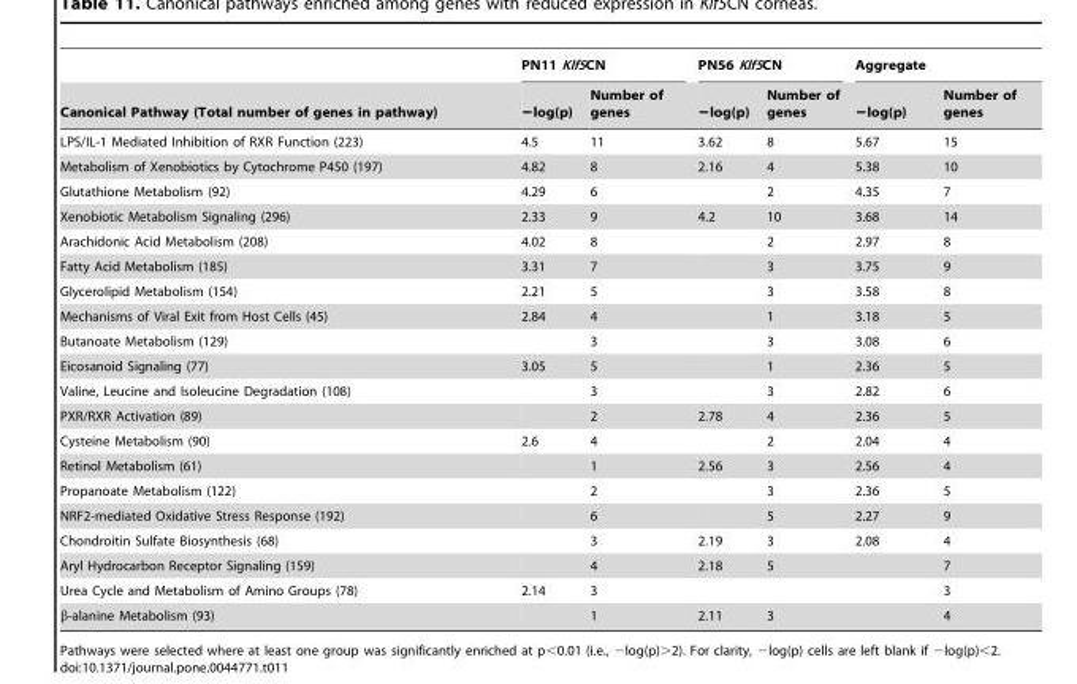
<table><thead><tr><td rowspan="2">Canonical Pathway (Total number of genes in pathway)</td><td colspan="2">PN11 Klf5CN</td><td colspan="2">PN56 Klf5CN</td><td colspan="2">Aggregate</td></tr><tr><td>−log(p)</td><td>Number of genes</td><td>−log(p)</td><td>Number of genes</td><td>−log(p)</td><td>Number of genes</td></tr></thead><tbody><tr><td>LPS/IL-1 Mediated Inhibition of RXR Function (223)</td><td>4.5</td><td>11</td><td>3.62</td><td>8</td><td>5.67</td><td>15</td></tr><tr><td>Metabolism of Xenobiotics by Cytochrome P450 (197)</td><td>4.82</td><td>8</td><td>2.16</td><td>4</td><td>5.38</td><td>10</td></tr><tr><td>Glutathione Metabolism (92)</td><td>4.29</td><td>6</td><td></td><td>2</td><td>4.35</td><td>7</td></tr><tr><td>Xenobiotic Metabolism Signaling (296)</td><td>2.33</td><td>9</td><td>4.2</td><td>10</td><td>3.68</td><td>14</td></tr><tr><td>Arachidonic Acid Metabolism (208)</td><td>4.02</td><td>8</td><td></td><td>2</td><td>2.97</td><td>8</td></tr><tr><td>Fatty Acid Metabolism (185)</td><td>3.31</td><td>7</td><td></td><td>3</td><td>3.75</td><td>9</td></tr><tr><td>Glycerolipid Metabolism (154)</td><td>2.21</td><td>5</td><td></td><td>3</td><td>3.58</td><td>8</td></tr><tr><td>Mechanisms of Viral Exit from Host Cells (45)</td><td>2.84</td><td>4</td><td></td><td>1</td><td>3.18</td><td>5</td></tr><tr><td>Butanoate Metabolism (129)</td><td></td><td>3</td><td></td><td>3</td><td>3.08</td><td>6</td></tr><tr><td>Eicosanoid Signaling (77)</td><td>3.05</td><td>5</td><td></td><td>1</td><td>2.36</td><td>5</td></tr><tr><td>Valine, Leucine and Isoleucine Degradation (108)</td><td></td><td>3</td><td></td><td>3</td><td>2.82</td><td>6</td></tr><tr><td>PXR/RXR Activation (89)</td><td></td><td>2</td><td>2.78</td><td>4</td><td>2.36</td><td>5</td></tr><tr><td>Cysteine Metabolism (90)</td><td>2.6</td><td>4</td><td></td><td>2</td><td>2.04</td><td>4</td></tr><tr><td>Retinol Metabolism (61)</td><td></td><td>1</td><td>2.56</td><td>3</td><td>2.56</td><td>4</td></tr><tr><td>Propanoate Metabolism (122)</td><td></td><td>2</td><td></td><td>3</td><td>2.36</td><td>5</td></tr><tr><td>NRF2-mediated Oxidative Stress Response (192)</td><td></td><td>6</td><td></td><td>5</td><td>2.27</td><td>9</td></tr><tr><td>Chondroitin Sulfate Biosynthesis (68)</td><td></td><td>3</td><td>2.19</td><td>3</td><td>2.08</td><td>4</td></tr><tr><td>Aryl Hydrocarbon Receptor Signaling (159)</td><td></td><td>4</td><td>2.18</td><td>5</td><td></td><td>7</td></tr><tr><td>Urea Cycle and Metabolism of Amino Groups (78)</td><td>2.14</td><td>3</td><td></td><td></td><td></td><td>3</td></tr><tr><td>β-alanine Metabolism (93)</td><td></td><td>1</td><td>2.11</td><td>3</td><td></td><td>4</td></tr></tbody></table>